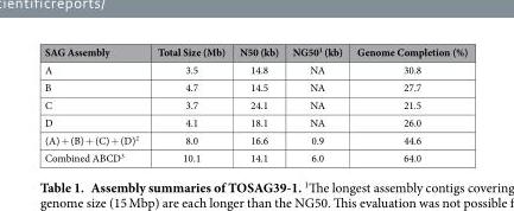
<table><thead><tr><td>SAG Assembly</td><td>Total Size (Mb)</td><td>N50 (kb)</td><td>NG50<sup>1</sup> (kb)</td><td>Genome Completion (%)</td></tr></thead><tbody><tr><td>A</td><td>3.5</td><td>14.8</td><td>NA</td><td>30.8</td></tr><tr><td>B</td><td>4.7</td><td>14.5</td><td>NA</td><td>27.7</td></tr><tr><td>C</td><td>3.7</td><td>24.1</td><td>NA</td><td>21.5</td></tr><tr><td>D</td><td>4.1</td><td>18.1</td><td>NA</td><td>26.0</td></tr><tr><td>(A) + (B) + (C) + (D)<sup>2</sup></td><td>8.0</td><td>16.6</td><td>0.9</td><td>44.6</td></tr><tr><td>Combined ABCD<sup>3</sup></td><td>10.1</td><td>14.1</td><td>6.0</td><td>64.0</td></tr></tbody></table>